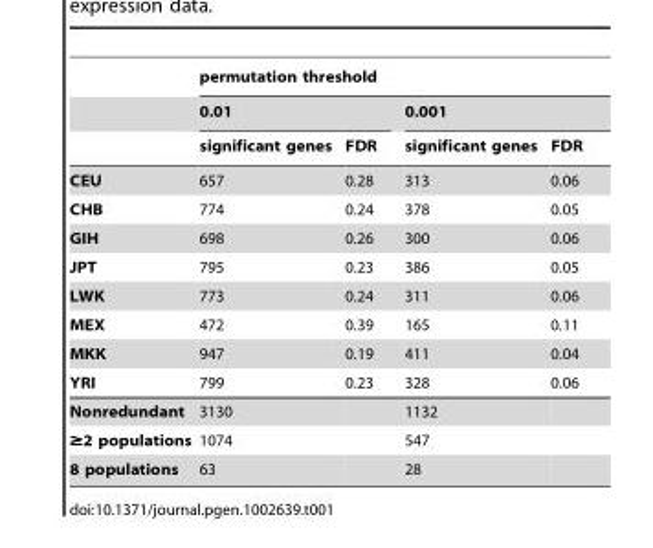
<table><thead><tr><td rowspan="3"></td><td colspan="4">permutation threshold</td></tr><tr><td colspan="2">0.01</td><td colspan="2">0.001</td></tr><tr><td>significant genes</td><td>FDR</td><td>significant genes</td><td>FDR</td></tr></thead><tbody><tr><td>CEU</td><td>657</td><td>0.28</td><td>313</td><td>0.06</td></tr><tr><td>CHB</td><td>774</td><td>0.24</td><td>378</td><td>0.05</td></tr><tr><td>GIH</td><td>698</td><td>0.26</td><td>300</td><td>0.06</td></tr><tr><td>JPT</td><td>795</td><td>0.23</td><td>386</td><td>0.05</td></tr><tr><td>LWK</td><td>773</td><td>0.24</td><td>311</td><td>0.06</td></tr><tr><td>MEX</td><td>472</td><td>0.39</td><td>165</td><td>0.11</td></tr><tr><td>MKK</td><td>947</td><td>0.19</td><td>411</td><td>0.04</td></tr><tr><td>YRI</td><td>799</td><td>0.23</td><td>328</td><td>0.06</td></tr><tr><td>Nonredundant</td><td>3130</td><td></td><td>1132</td><td></td></tr><tr><td>≥2 populations</td><td>1074</td><td></td><td>547</td><td></td></tr><tr><td>8 populations</td><td>63</td><td></td><td>28</td><td></td></tr></tbody></table>